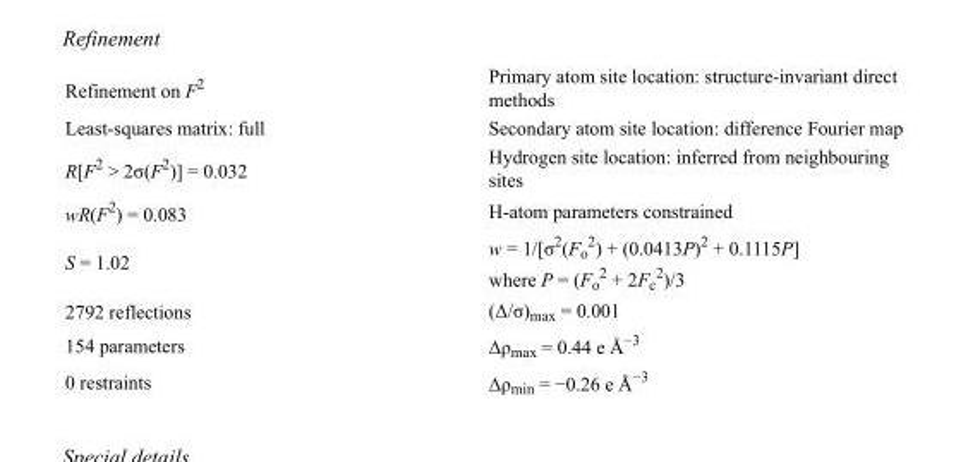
<table><tbody><tr><td>Refinement on F<sup>2</sup></td><td>Primary atom site location: structure-invariant direct methods</td></tr><tr><td>Least-squares matrix: full</td><td>Secondary atom site location: difference Fourier map</td></tr><tr><td>R[F<sup>2</sup> &gt; 2σ(F<sup>2</sup>)] = 0.032</td><td>Hydrogen site location: inferred from neighbouring sites</td></tr><tr><td>wR(F<sup>2</sup>) = 0.083</td><td>H-atom parameters constrained</td></tr><tr><td>S = 1.02</td><td>w = 1/[σ<sup>2</sup>(F<sub>o</sub> <sup>2</sup>) + (0.0413P)<sup>2</sup> + 0.1115P] where P = (F<sub>o</sub> <sup>2</sup> + 2F<sub>c</sub> <sup>2</sup>)/3</td></tr><tr><td>2792 reflections</td><td>(Δ/σ)<sub>max</sub> = 0.001</td></tr><tr><td>154 parameters</td><td>Δρ<sub>max</sub> = 0.44 e Å<sup>−3</sup></td></tr><tr><td>0 restraints</td><td>Δρ<sub>min</sub> = −0.26 e Å<sup>−3</sup></td></tr></tbody></table>